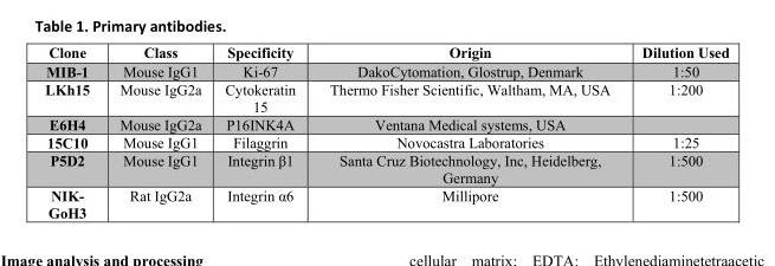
<table><thead><tr><td>Clone</td><td>Class</td><td>Specificity</td><td>Origin</td><td>Dilution Used</td></tr></thead><tbody><tr><td>MIB-1</td><td>Mouse IgG1</td><td>Ki-67</td><td>DakoCytomation, Glostrup, Denmark</td><td>1:50</td></tr><tr><td>LKh15</td><td>Mouse IgG2a</td><td>Cytokeratin 15</td><td>Thermo Fisher Scientific, Waltham, MA, USA</td><td>1:200</td></tr><tr><td>E6H4</td><td>Mouse IgG2a</td><td>P16INK4A</td><td>Ventana Medical systems, USA</td><td></td></tr><tr><td>15C10</td><td>Mouse IgG1</td><td>Filaggrin</td><td>Novocastra Laboratories</td><td>1:25</td></tr><tr><td>P5D2</td><td>Mouse IgG1</td><td>Integrin β1</td><td>Santa Cruz Biotechnology, Inc, Heidelberg, Germany</td><td>1:500</td></tr><tr><td>NIK- GoH3</td><td>Rat IgG2a</td><td>Integrin α6</td><td>Millipore</td><td>1:500</td></tr></tbody></table>